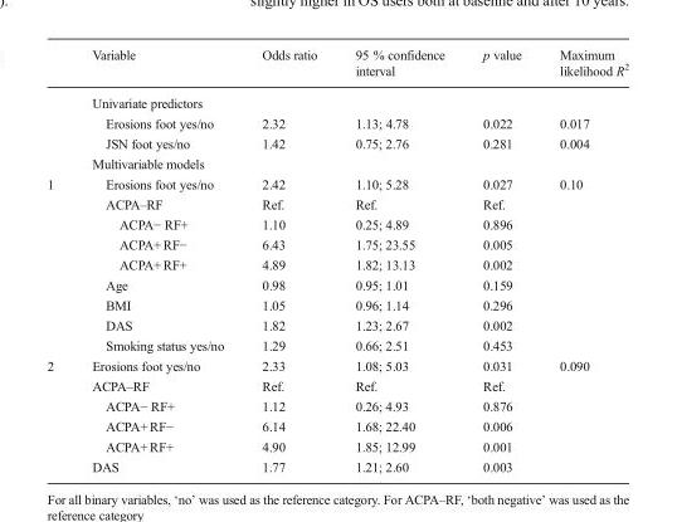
<table><thead><tr><td></td><td>Variable</td><td>Odds ratio</td><td>95 % confidence interval</td><td>p value</td><td>Maximum likelihood R<sup>2</sup></td></tr></thead><tbody><tr><td></td><td colspan="5">Univariate predictors</td></tr><tr><td></td><td>Erosions foot yes/no</td><td>2.32</td><td>1.13; 4.78</td><td>0.022</td><td>0.017</td></tr><tr><td></td><td>JSN foot yes/no</td><td>1.42</td><td>0.75; 2.76</td><td>0.281</td><td>0.004</td></tr><tr><td></td><td colspan="5">Multivariable models</td></tr><tr><td rowspan="9">1</td><td>Erosions foot yes/no</td><td>2.42</td><td>1.10; 5.28</td><td>0.027</td><td>0.10</td></tr><tr><td>ACPA–RF</td><td>Ref.</td><td>Ref.</td><td>Ref.</td><td></td></tr><tr><td>ACPA− RF+</td><td>1.10</td><td>0.25; 4.89</td><td>0.896</td><td></td></tr><tr><td>ACPA+ RF−</td><td>6.43</td><td>1.75; 23.55</td><td>0.005</td><td></td></tr><tr><td>ACPA+ RF+</td><td>4.89</td><td>1.82; 13.13</td><td>0.002</td><td></td></tr><tr><td>Age</td><td>0.98</td><td>0.95; 1.01</td><td>0.159</td><td></td></tr><tr><td>BMI</td><td>1.05</td><td>0.96; 1.14</td><td>0.296</td><td></td></tr><tr><td>DAS</td><td>1.82</td><td>1.23; 2.67</td><td>0.002</td><td></td></tr><tr><td>Smoking status yes/no</td><td>1.29</td><td>0.66; 2.51</td><td>0.453</td><td></td></tr><tr><td rowspan="6">2</td><td>Erosions foot yes/no</td><td>2.33</td><td>1.08; 5.03</td><td>0.031</td><td>0.090</td></tr><tr><td>ACPA–RF</td><td>Ref.</td><td>Ref.</td><td>Ref.</td><td></td></tr><tr><td>ACPA− RF+</td><td>1.12</td><td>0.26; 4.93</td><td>0.876</td><td></td></tr><tr><td>ACPA+ RF−</td><td>6.14</td><td>1.68; 22.40</td><td>0.006</td><td></td></tr><tr><td>ACPA+ RF+</td><td>4.90</td><td>1.85; 12.99</td><td>0.001</td><td></td></tr><tr><td>DAS</td><td>1.77</td><td>1.21; 2.60</td><td>0.003</td><td></td></tr></tbody></table>